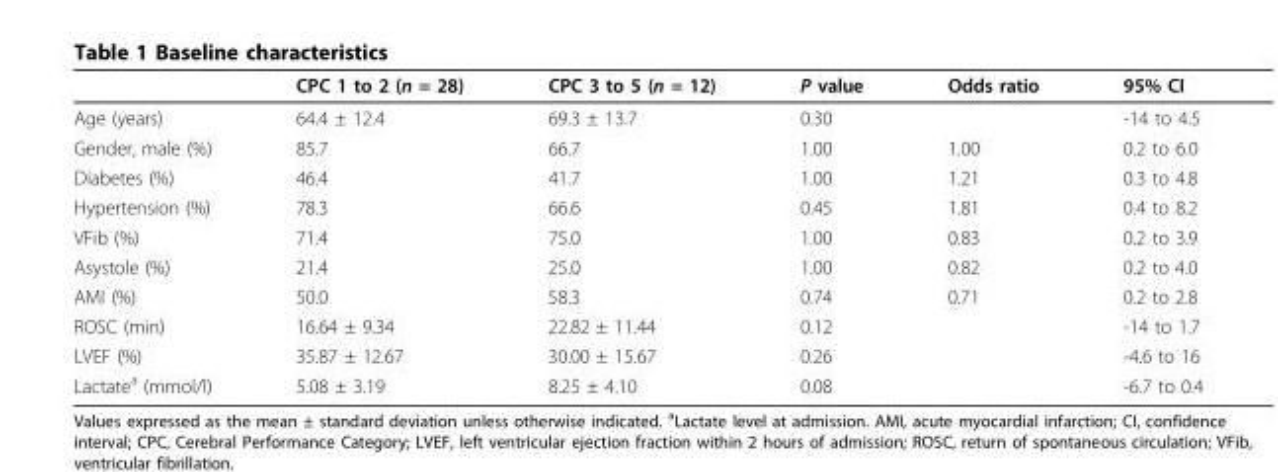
<table><thead><tr><td></td><td>CPC 1 to 2 (n = 28)</td><td>CPC 3 to 5 (n = 12)</td><td>P value</td><td>Odds ratio</td><td>95% CI</td></tr></thead><tbody><tr><td>Age (years)</td><td>64.4 ± 12.4</td><td>69.3 ± 13.7</td><td>0.30</td><td></td><td>-14 to 4.5</td></tr><tr><td>Gender, male (%)</td><td>85.7</td><td>66.7</td><td>1.00</td><td>1.00</td><td>0.2 to 6.0</td></tr><tr><td>Diabetes (%)</td><td>46.4</td><td>41.7</td><td>1.00</td><td>1.21</td><td>0.3 to 4.8</td></tr><tr><td>Hypertension (%)</td><td>78.3</td><td>66.6</td><td>0.45</td><td>1.81</td><td>0.4 to 8.2</td></tr><tr><td>VFib (%)</td><td>71.4</td><td>75.0</td><td>1.00</td><td>0.83</td><td>0.2 to 3.9</td></tr><tr><td>Asystole (%)</td><td>21.4</td><td>25.0</td><td>1.00</td><td>0.82</td><td>0.2 to 4.0</td></tr><tr><td>AMI (%)</td><td>50.0</td><td>58.3</td><td>0.74</td><td>0.71</td><td>0.2 to 2.8</td></tr><tr><td>ROSC (min)</td><td>16.64 ± 9.34</td><td>22.82 ± 11.44</td><td>0.12</td><td></td><td>-14 to 1.7</td></tr><tr><td>LVEF (%)</td><td>35.87 ± 12.67</td><td>30.00 ± 15.67</td><td>0.26</td><td></td><td>-4.6 to 16</td></tr><tr><td>Lactate<sup>a</sup> (mmol/l)</td><td>5.08 ± 3.19</td><td>8.25 ± 4.10</td><td>0.08</td><td></td><td>-6.7 to 0.4</td></tr></tbody></table>